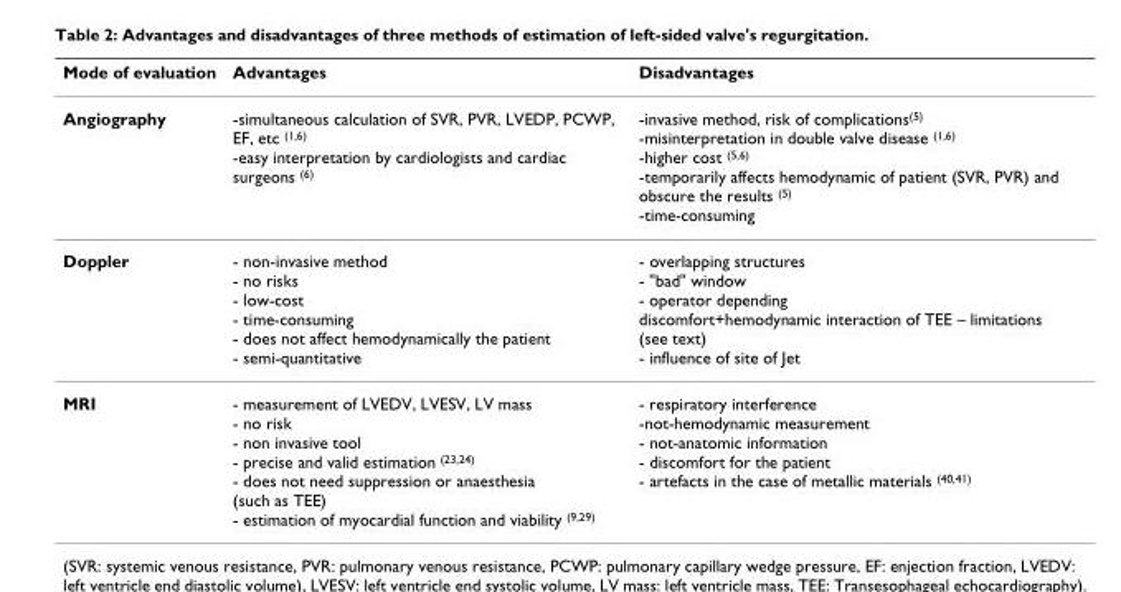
<table><thead><tr><td>Mode of evaluation</td><td>Advantages</td><td>Disadvantages</td></tr></thead><tbody><tr><td>Angiography</td><td>-simultaneous calculation of SVR, PVR, LVEDP, PCWP, EF, etc <sup>(1,6)</sup> -easy interpretation by cardiologists and cardiac surgeons <sup>(6)</sup></td><td>-invasive method, risk of complications<sup>(5)</sup> -misinterpretation in double valve disease <sup>(1,6)</sup> -higher cost <sup>(5,6)</sup> -temporarily affects hemodynamic of patient (SVR, PVR) and obscure the results <sup>(5)</sup> -time-consuming</td></tr><tr><td>Doppler</td><td>- non-invasive method - no risks - low-cost - time-consuming - does not affect hemodynamically the patient - semi-quantitative</td><td>- overlapping structures - &quot;bad&quot; window - operator depending discomfort+hemodynamic interaction of TEE – limitations (see text) - influence of site of Jet</td></tr><tr><td>MRI</td><td>- measurement of LVEDV, LVESV, LV mass - no risk - non invasive tool - precise and valid estimation <sup>(23,24)</sup> - does not need suppression or anaesthesia (such as TEE) - estimation of myocardial function and viability <sup>(9,29)</sup></td><td>- respiratory interference -not-hemodynamic measurement - not-anatomic information - discomfort for the patient - artefacts in the case of metallic materials <sup>(40,41)</sup></td></tr></tbody></table>